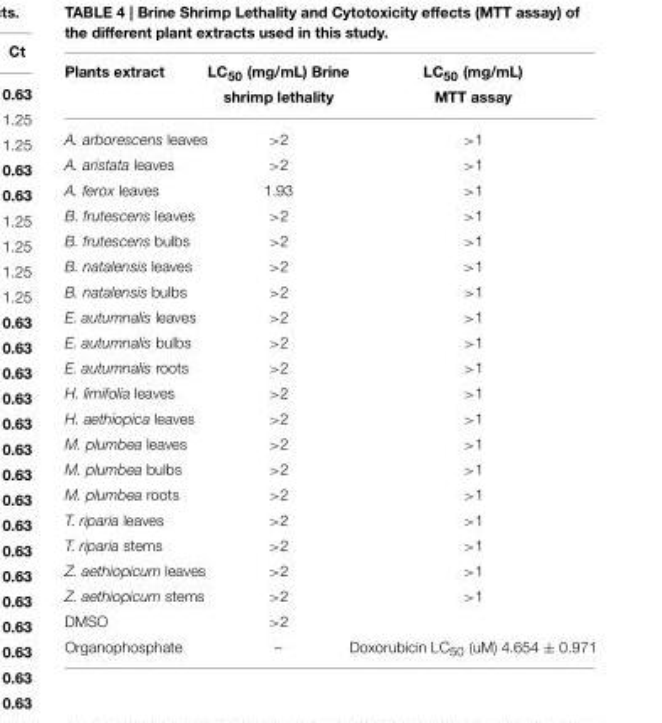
<table><thead><tr><td>Plants extract</td><td>LC50 (mg/mL) Brine shrimp lethality</td><td>LC50 (mg/mL) MTT assay</td></tr></thead><tbody><tr><td>A. arborescens leaves</td><td>&gt;2</td><td>&gt;1</td></tr><tr><td>A. aristata leaves</td><td>&gt;2</td><td>&gt;1</td></tr><tr><td>A. ferox leaves</td><td>1.93</td><td>&gt;1</td></tr><tr><td>B. frutescens leaves</td><td>&gt;2</td><td>&gt;1</td></tr><tr><td>B. frutescens bulbs</td><td>&gt;2</td><td>&gt;1</td></tr><tr><td>B. natalensis leaves</td><td>&gt;2</td><td>&gt;1</td></tr><tr><td>B. natalensis bulbs</td><td>&gt;2</td><td>&gt;1</td></tr><tr><td>E. autumnalis leaves</td><td>&gt;2</td><td>&gt;1</td></tr><tr><td>E. autumnalis bulbs</td><td>&gt;2</td><td>&gt;1</td></tr><tr><td>E. autumnalis roots</td><td>&gt;2</td><td>&gt;1</td></tr><tr><td>H. limifolia leaves</td><td>&gt;2</td><td>&gt;1</td></tr><tr><td>H. aethiopica leaves</td><td>&gt;2</td><td>&gt;1</td></tr><tr><td>M. plumbea leaves</td><td>&gt;2</td><td>&gt;1</td></tr><tr><td>M. plumbea bulbs</td><td>&gt;2</td><td>&gt;1</td></tr><tr><td>M. plumbea roots</td><td>&gt;2</td><td>&gt;1</td></tr><tr><td>T. riparia leaves</td><td>&gt;2</td><td>&gt;1</td></tr><tr><td>T. riparia stems</td><td>&gt;2</td><td>&gt;1</td></tr><tr><td>Z. aethiopicum leaves</td><td>&gt;2</td><td>&gt;1</td></tr><tr><td>Z. aethiopicum stems</td><td>&gt;2</td><td>&gt;1</td></tr><tr><td>DMSO</td><td>&gt;2</td><td></td></tr><tr><td>Organophosphate</td><td>–</td><td>Doxorubicin LC50 (uM) 4.654 ± 0.971</td></tr></tbody></table>